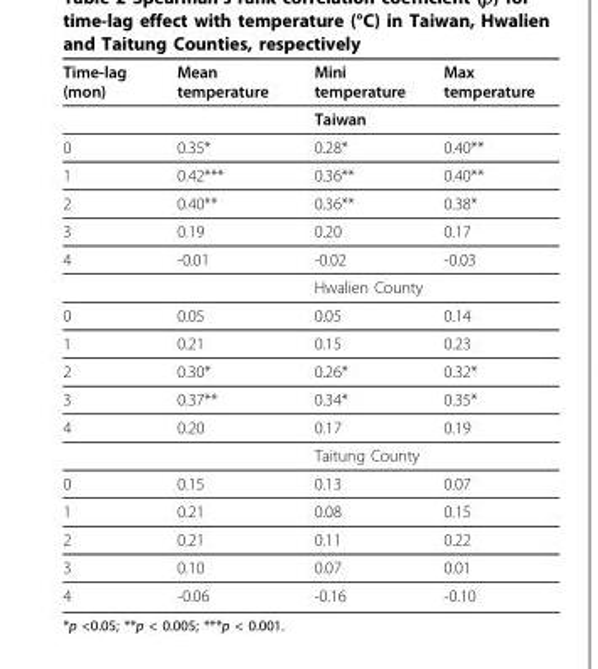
<table><thead><tr><td>Time-lag (mon)</td><td>Mean temperature</td><td>Mini temperature</td><td>Max temperature</td></tr></thead><tbody><tr><td></td><td></td><td>Taiwan</td><td></td></tr><tr><td>0</td><td>0.35*</td><td>0.28*</td><td>0.40**</td></tr><tr><td>1</td><td>0.42***</td><td>0.36**</td><td>0.40**</td></tr><tr><td>2</td><td>0.40**</td><td>0.36**</td><td>0.38*</td></tr><tr><td>3</td><td>0.19</td><td>0.20</td><td>0.17</td></tr><tr><td rowspan="2">4</td><td>-0.01</td><td>-0.02</td><td>-0.03</td></tr><tr><td></td><td>Hwalien County</td><td></td></tr><tr><td>0</td><td>0.05</td><td>0.05</td><td>0.14</td></tr><tr><td>1</td><td>0.21</td><td>0.15</td><td>0.23</td></tr><tr><td>2</td><td>0.30*</td><td>0.26*</td><td>0.32*</td></tr><tr><td>3</td><td>0.37**</td><td>0.34*</td><td>0.35*</td></tr><tr><td rowspan="2">4</td><td>0.20</td><td>0.17</td><td>0.19</td></tr><tr><td></td><td>Taitung County</td><td></td></tr><tr><td>0</td><td>0.15</td><td>0.13</td><td>0.07</td></tr><tr><td>1</td><td>0.21</td><td>0.08</td><td>0.15</td></tr><tr><td>2</td><td>0.21</td><td>0.11</td><td>0.22</td></tr><tr><td>3</td><td>0.10</td><td>0.07</td><td>0.01</td></tr><tr><td>4</td><td>-0.06</td><td>-0.16</td><td>-0.10</td></tr></tbody></table>